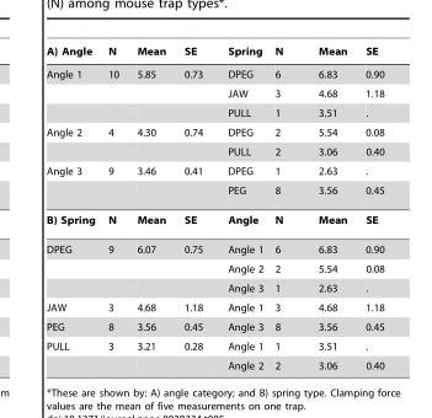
<table><thead><tr><td>A) Angle</td><td>N</td><td>Mean</td><td>SE</td><td>Spring</td><td>N</td><td>Mean</td><td>SE</td></tr></thead><tbody><tr><td rowspan="3">Angle 1</td><td>10</td><td>5.85</td><td>0.73</td><td>DPEG</td><td>6</td><td>6.83</td><td>0.90</td></tr><tr><td></td><td></td><td></td><td>JAW</td><td>3</td><td>4.68</td><td>1.18</td></tr><tr><td></td><td></td><td></td><td>PULL</td><td>1</td><td>3.51</td><td>.</td></tr><tr><td rowspan="2">Angle 2</td><td>4</td><td>4.30</td><td>0.74</td><td>DPEG</td><td>2</td><td>5.54</td><td>0.08</td></tr><tr><td></td><td></td><td></td><td>PULL</td><td>2</td><td>3.06</td><td>0.40</td></tr><tr><td rowspan="2">Angle 3</td><td>9</td><td>3.46</td><td>0.41</td><td>DPEG</td><td>1</td><td>2.63</td><td>.</td></tr><tr><td></td><td></td><td></td><td>PEG</td><td>8</td><td>3.56</td><td>0.45</td></tr><tr><td>B) Spring</td><td>N</td><td>Mean</td><td>SE</td><td>Angle</td><td>N</td><td>Mean</td><td>SE</td></tr><tr><td rowspan="3">DPEG</td><td>9</td><td>6.07</td><td>0.75</td><td>Angle 1</td><td>6</td><td>6.83</td><td>0.90</td></tr><tr><td></td><td></td><td></td><td>Angle 2</td><td>2</td><td>5.54</td><td>0.08</td></tr><tr><td></td><td></td><td></td><td>Angle 3</td><td>1</td><td>2.63</td><td>.</td></tr><tr><td>JAW</td><td>3</td><td>4.68</td><td>1.18</td><td>Angle 1</td><td>3</td><td>4.68</td><td>1.18</td></tr><tr><td>PEG</td><td>8</td><td>3.56</td><td>0.45</td><td>Angle 3</td><td>8</td><td>3.56</td><td>0.45</td></tr><tr><td rowspan="2">PULL</td><td>3</td><td>3.21</td><td>0.28</td><td>Angle 1</td><td>1</td><td>3.51</td><td>.</td></tr><tr><td></td><td></td><td></td><td>Angle 2</td><td>2</td><td>3.06</td><td>0.40</td></tr></tbody></table>